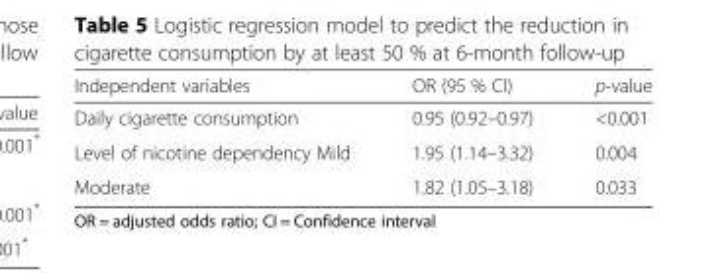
<table><thead><tr><td>Independent variables</td><td>OR (95 % CI)</td><td>p-value</td></tr></thead><tbody><tr><td>Daily cigarette consumption</td><td>0.95 (0.92–0.97)</td><td>&lt;0.001</td></tr><tr><td>Level of nicotine dependency Mild</td><td>1.95 (1.14–3.32)</td><td>0.004</td></tr><tr><td>Moderate</td><td>1.82 (1.05–3.18)</td><td>0.033</td></tr></tbody></table>